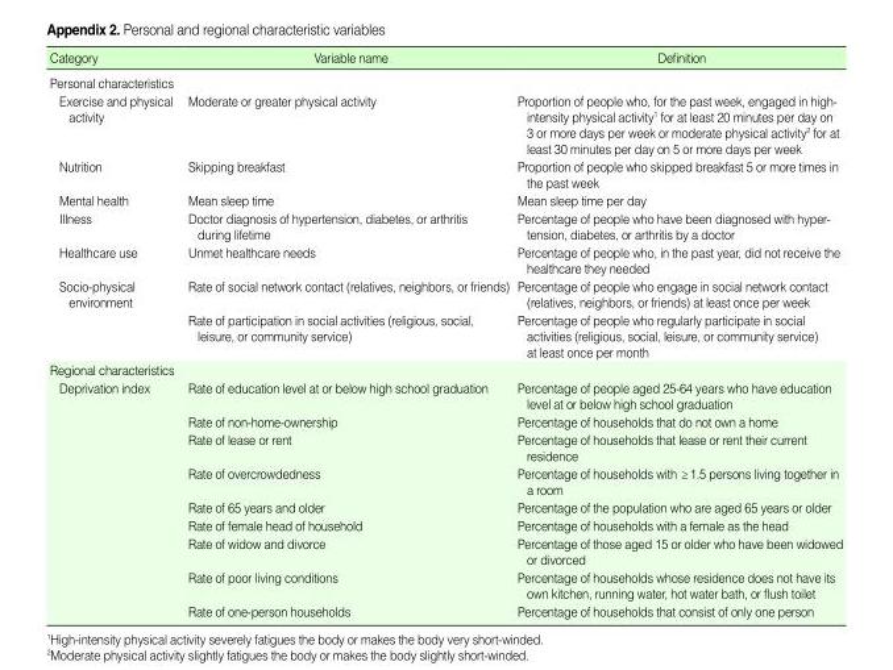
<table><thead><tr><td>Category</td><td>Variable name</td><td>Definition</td></tr></thead><tbody><tr><td colspan="3">Personal characteristics</td></tr><tr><td>Exercise and physical activity</td><td>Moderate or greater physical activity</td><td>Proportion of people who, for the past week, engaged in high- intensity physical activity<sup>1</sup> for at least 20 minutes per day on 3 or more days per week or moderate physical activity<sup>2</sup> for at least 30 minutes per day on 5 or more days per week</td></tr><tr><td>Nutrition</td><td>Skipping breakfast</td><td>Proportion of people who skipped breakfast 5 or more times in the past week</td></tr><tr><td>Mental health</td><td>Mean sleep time</td><td>Mean sleep time per day</td></tr><tr><td>Illness</td><td>Doctor diagnosis of hypertension, diabetes, or arthritis during lifetime</td><td>Percentage of people who have been diagnosed with hyper- tension, diabetes, or arthritis by a doctor</td></tr><tr><td>Healthcare use</td><td>Unmet healthcare needs</td><td>Percentage of people who, in the past year, did not receive the healthcare they needed</td></tr><tr><td rowspan="2">Socio-physical environment</td><td>Rate of social network contact (relatives, neighbors, or friends)</td><td>Percentage of people who engage in social network contact (relatives, neighbors, or friends) at least once per week</td></tr><tr><td>Rate of participation in social activities (religious, social, leisure, or community service)</td><td>Percentage of people who regularly participate in social activities (religious, social, leisure, or community service) at least once per month</td></tr><tr><td colspan="3">Regional characteristics</td></tr><tr><td rowspan="9">Deprivation index</td><td>Rate of education level at or below high school graduation</td><td>Percentage of people aged 25-64 years who have education level at or below high school graduation</td></tr><tr><td>Rate of non-home-ownership</td><td>Percentage of households that do not own a home</td></tr><tr><td>Rate of lease or rent</td><td>Percentage of households that lease or rent their current residence</td></tr><tr><td>Rate of overcrowdedness</td><td>Percentage of households with ≥1.5 persons living together in a room</td></tr><tr><td>Rate of 65 years and older</td><td>Percentage of the population who are aged 65 years or older</td></tr><tr><td>Rate of female head of household</td><td>Percentage of households with a female as the head</td></tr><tr><td>Rate of widow and divorce</td><td>Percentage of those aged 15 or older who have been widowed or divorced</td></tr><tr><td>Rate of poor living conditions</td><td>Percentage of households whose residence does not have its own kitchen, running water, hot water bath, or flush toilet</td></tr><tr><td>Rate of one-person households</td><td>Percentage of households that consist of only one person</td></tr></tbody></table>